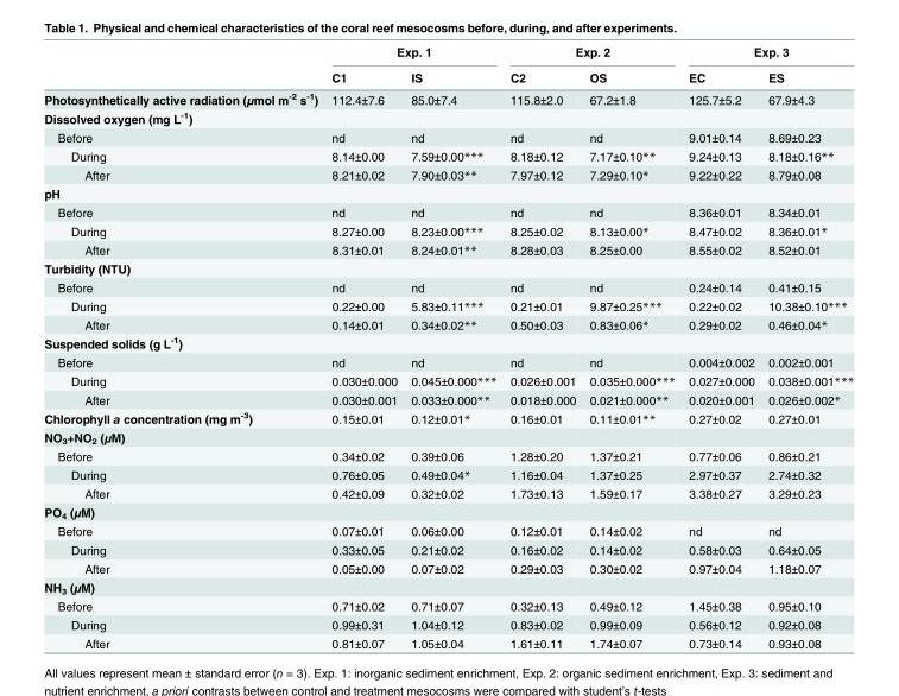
<table><thead><tr><td rowspan="2"></td><td colspan="2">Exp. 1</td><td colspan="2">Exp. 2</td><td colspan="2">Exp. 3</td></tr><tr><td>C1</td><td>IS</td><td>C2</td><td>OS</td><td>EC</td><td>ES</td></tr></thead><tbody><tr><td>Photosynthetically active radiation (μmol m<sup>-2</sup> s<sup>-1</sup>)</td><td>112.4±7.6</td><td>85.0±7.4</td><td>115.8±2.0</td><td>67.2±1.8</td><td>125.7±5.2</td><td>67.9±4.3</td></tr><tr><td colspan="7">Dissolved oxygen (mg L<sup>-1</sup>)</td></tr><tr><td>Before</td><td>nd</td><td>nd</td><td>nd</td><td>nd</td><td>9.01±0.14</td><td>8.69±0.23</td></tr><tr><td>During</td><td>8.14±0.00</td><td>7.59±0.00***</td><td>8.18±0.12</td><td>7.17±0.10**</td><td>9.24±0.13</td><td>8.18±0.16**</td></tr><tr><td>After</td><td>8.21±0.02</td><td>7.90±0.03**</td><td>7.97±0.12</td><td>7.29±0.10*</td><td>9.22±0.22</td><td>8.79±0.08</td></tr><tr><td colspan="7">pH</td></tr><tr><td>Before</td><td>nd</td><td>nd</td><td>nd</td><td>nd</td><td>8.36±0.01</td><td>8.34±0.01</td></tr><tr><td>During</td><td>8.27±0.00</td><td>8.23±0.00***</td><td>8.25±0.02</td><td>8.13±0.00*</td><td>8.47±0.02</td><td>8.36±0.01*</td></tr><tr><td>After</td><td>8.31±0.01</td><td>8.24±0.01**</td><td>8.28±0.03</td><td>8.25±0.00</td><td>8.55±0.02</td><td>8.52±0.01</td></tr><tr><td colspan="7">Turbidity (NTU)</td></tr><tr><td>Before</td><td>nd</td><td>nd</td><td>nd</td><td>nd</td><td>0.24±0.14</td><td>0.41±0.15</td></tr><tr><td>During</td><td>0.22±0.00</td><td>5.83±0.11***</td><td>0.21±0.01</td><td>9.87±0.25***</td><td>0.22±0.02</td><td>10.38±0.10***</td></tr><tr><td>After</td><td>0.14±0.01</td><td>0.34±0.02**</td><td>0.50±0.03</td><td>0.83±0.06*</td><td>0.29±0.02</td><td>0.46±0.04*</td></tr><tr><td colspan="7">Suspended solids (g L<sup>-1</sup>)</td></tr><tr><td>Before</td><td>nd</td><td>nd</td><td>nd</td><td>nd</td><td>0.004±0.002</td><td>0.002±0.001</td></tr><tr><td>During</td><td>0.030±0.000</td><td>0.045±0.000***</td><td>0.026±0.001</td><td>0.035±0.000***</td><td>0.027±0.000</td><td>0.038±0.001***</td></tr><tr><td>After</td><td>0.030±0.001</td><td>0.033±0.000**</td><td>0.018±0.000</td><td>0.021±0.000**</td><td>0.020±0.001</td><td>0.026±0.002*</td></tr><tr><td>Chlorophyll a concentration (mg m<sup>-3</sup>)</td><td>0.15±0.01</td><td>0.12±0.01*</td><td>0.16±0.01</td><td>0.11±0.01**</td><td>0.27±0.02</td><td>0.27±0.01</td></tr><tr><td colspan="7">NO<sub>3</sub>+NO<sub>2</sub> (μM)</td></tr><tr><td>Before</td><td>0.34±0.02</td><td>0.39±0.06</td><td>1.28±0.20</td><td>1.37±0.21</td><td>0.77±0.06</td><td>0.86±0.21</td></tr><tr><td>During</td><td>0.76±0.05</td><td>0.49±0.04*</td><td>1.16±0.04</td><td>1.37±0.25</td><td>2.97±0.37</td><td>2.74±0.32</td></tr><tr><td>After</td><td>0.42±0.09</td><td>0.32±0.02</td><td>1.73±0.13</td><td>1.59±0.17</td><td>3.38±0.27</td><td>3.29±0.23</td></tr><tr><td colspan="7">PO<sub>4</sub> (μM)</td></tr><tr><td>Before</td><td>0.07±0.01</td><td>0.06±0.00</td><td>0.12±0.01</td><td>0.14±0.02</td><td>nd</td><td>nd</td></tr><tr><td>During</td><td>0.33±0.05</td><td>0.21±0.02</td><td>0.16±0.02</td><td>0.14±0.02</td><td>0.58±0.03</td><td>0.64±0.05</td></tr><tr><td>After</td><td>0.05±0.00</td><td>0.07±0.02</td><td>0.29±0.03</td><td>0.30±0.02</td><td>0.97±0.04</td><td>1.18±0.07</td></tr><tr><td colspan="7">NH<sub>3</sub> (μM)</td></tr><tr><td>Before</td><td>0.71±0.02</td><td>0.71±0.07</td><td>0.32±0.13</td><td>0.49±0.12</td><td>1.45±0.38</td><td>0.95±0.10</td></tr><tr><td>During</td><td>0.99±0.31</td><td>1.04±0.12</td><td>0.83±0.02</td><td>0.99±0.09</td><td>0.56±0.12</td><td>0.92±0.08</td></tr><tr><td>After</td><td>0.81±0.07</td><td>1.05±0.04</td><td>1.61±0.11</td><td>1.74±0.07</td><td>0.73±0.14</td><td>0.93±0.08</td></tr></tbody></table>